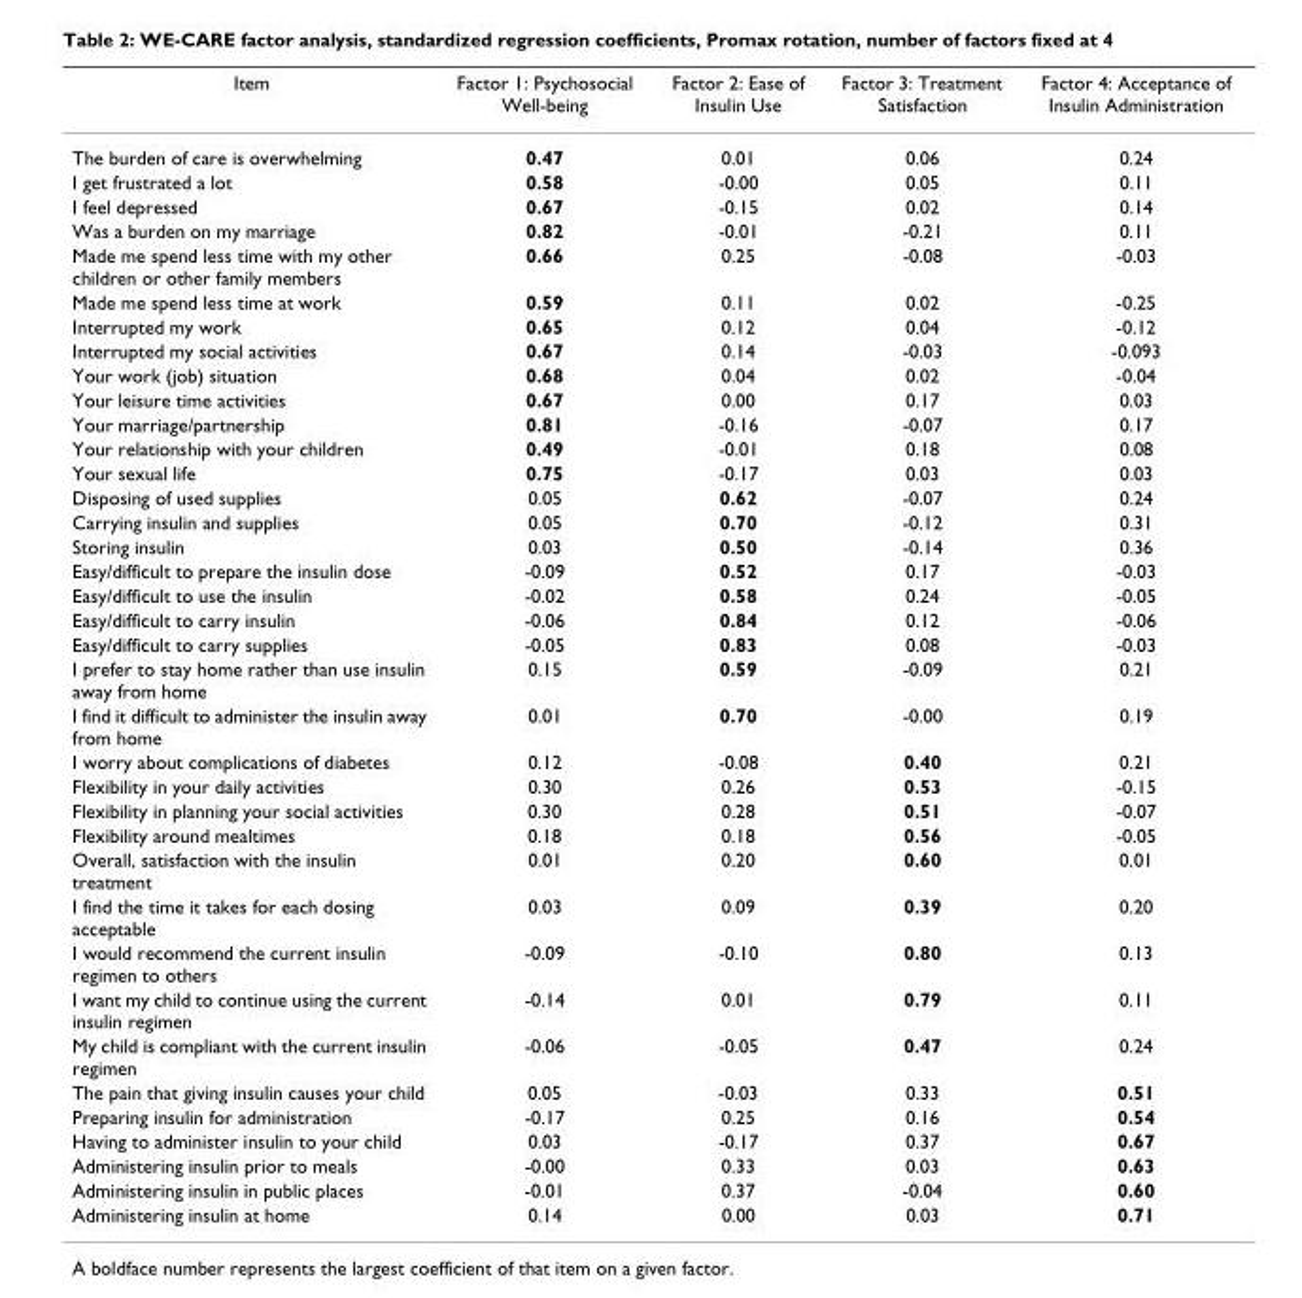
<table><thead><tr><td>Item</td><td>Factor 1: Psychosocial Well-being</td><td>Factor 2: Ease of Insulin Use</td><td>Factor 3: Treatment Satisfaction</td><td>Factor 4: Acceptance of Insulin Administration</td></tr></thead><tbody><tr><td>The burden of care is overwhelming</td><td>0.47</td><td>0.01</td><td>0.06</td><td>0.24</td></tr><tr><td>I get frustrated a lot</td><td>0.58</td><td>-0.00</td><td>0.05</td><td>0.11</td></tr><tr><td>I feel depressed</td><td>0.67</td><td>-0.15</td><td>0.02</td><td>0.14</td></tr><tr><td>Was a burden on my marriage</td><td>0.82</td><td>-0.01</td><td>-0.21</td><td>0.11</td></tr><tr><td>Made me spend less time with my other children or other family members</td><td>0.66</td><td>0.25</td><td>-0.08</td><td>-0.03</td></tr><tr><td>Made me spend less time at work</td><td>0.59</td><td>0.11</td><td>0.02</td><td>-0.25</td></tr><tr><td>Interrupted my work</td><td>0.65</td><td>0.12</td><td>0.04</td><td>-0.12</td></tr><tr><td>Interrupted my social activities</td><td>0.67</td><td>0.14</td><td>-0.03</td><td>-0.093</td></tr><tr><td>Your work (job) situation</td><td>0.68</td><td>0.04</td><td>0.02</td><td>-0.04</td></tr><tr><td>Your leisure time activities</td><td>0.67</td><td>0.00</td><td>0.17</td><td>0.03</td></tr><tr><td>Your marriage/partnership</td><td>0.81</td><td>-0.16</td><td>-0.07</td><td>0.17</td></tr><tr><td>Your relationship with your children</td><td>0.49</td><td>-0.01</td><td>0.18</td><td>0.08</td></tr><tr><td>Your sexual life</td><td>0.75</td><td>-0.17</td><td>0.03</td><td>0.03</td></tr><tr><td>Disposing of used supplies</td><td>0.05</td><td>0.62</td><td>-0.07</td><td>0.24</td></tr><tr><td>Carrying insulin and supplies</td><td>0.05</td><td>0.70</td><td>-0.12</td><td>0.31</td></tr><tr><td>Storing insulin</td><td>0.03</td><td>0.50</td><td>-0.14</td><td>0.36</td></tr><tr><td>Easy/difficult to prepare the insulin dose</td><td>-0.09</td><td>0.52</td><td>0.17</td><td>-0.03</td></tr><tr><td>Easy/difficult to use the insulin</td><td>-0.02</td><td>0.58</td><td>0.24</td><td>-0.05</td></tr><tr><td>Easy/difficult to carry insulin</td><td>-0.06</td><td>0.84</td><td>0.12</td><td>-0.06</td></tr><tr><td>Easy/difficult to carry supplies</td><td>-0.05</td><td>0.83</td><td>0.08</td><td>-0.03</td></tr><tr><td>I prefer to stay home rather than use insulin away from home</td><td>0.15</td><td>0.59</td><td>-0.09</td><td>0.21</td></tr><tr><td>I find it difficult to administer the insulin away from home</td><td>0.01</td><td>0.70</td><td>-0.00</td><td>0.19</td></tr><tr><td>I worry about complications of diabetes</td><td>0.12</td><td>-0.08</td><td>0.40</td><td>0.21</td></tr><tr><td>Flexibility in your daily activities</td><td>0.30</td><td>0.26</td><td>0.53</td><td>-0.15</td></tr><tr><td>Flexibility in planning your social activities</td><td>0.30</td><td>0.28</td><td>0.51</td><td>-0.07</td></tr><tr><td>Flexibility around mealtimes</td><td>0.18</td><td>0.18</td><td>0.56</td><td>-0.05</td></tr><tr><td>Overall, satisfaction with the insulin treatment</td><td>0.01</td><td>0.20</td><td>0.60</td><td>0.01</td></tr><tr><td>I find the time it takes for each dosing acceptable</td><td>0.03</td><td>0.09</td><td>0.39</td><td>0.20</td></tr><tr><td>I would recommend the current insulin regimen to others</td><td>-0.09</td><td>-0.10</td><td>0.80</td><td>0.13</td></tr><tr><td>I want my child to continue using the current insulin regimen</td><td>-0.14</td><td>0.01</td><td>0.79</td><td>0.11</td></tr><tr><td>My child is compliant with the current insulin regimen</td><td>-0.06</td><td>-0.05</td><td>0.47</td><td>0.24</td></tr><tr><td>The pain that giving insulin causes your child</td><td>0.05</td><td>-0.03</td><td>0.33</td><td>0.51</td></tr><tr><td>Preparing insulin for administration</td><td>-0.17</td><td>0.25</td><td>0.16</td><td>0.54</td></tr><tr><td>Having to administer insulin to your child</td><td>0.03</td><td>-0.17</td><td>0.37</td><td>0.67</td></tr><tr><td>Administering insulin prior to meals</td><td>-0.00</td><td>0.33</td><td>0.03</td><td>0.63</td></tr><tr><td>Administering insulin in public places</td><td>-0.01</td><td>0.37</td><td>-0.04</td><td>0.60</td></tr><tr><td>Administering insulin at home</td><td>0.14</td><td>0.00</td><td>0.03</td><td>0.71</td></tr></tbody></table>